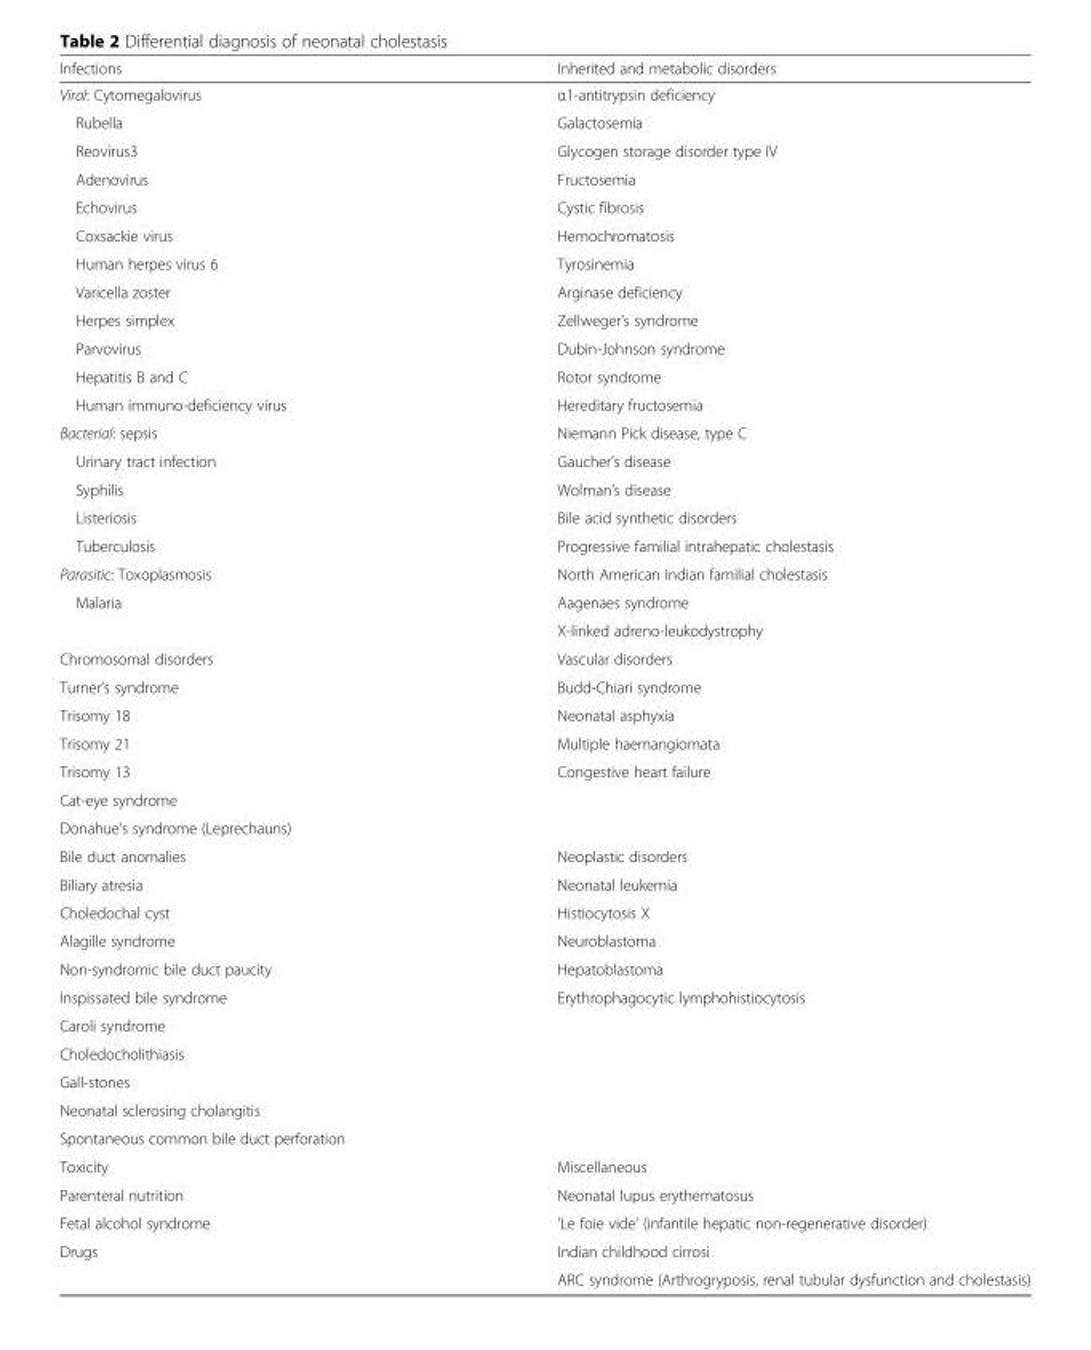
<table><thead><tr><td>Infections</td><td>Inherited and metabolic disorders</td></tr></thead><tbody><tr><td>Viral: Cytomegalovirus</td><td>α1-antitrypsin deficiency</td></tr><tr><td>Rubella</td><td>Galactosemia</td></tr><tr><td>Reovirus3</td><td>Glycogen storage disorder type IV</td></tr><tr><td>Adenovirus</td><td>Fructosemia</td></tr><tr><td>Echovirus</td><td>Cystic fibrosis</td></tr><tr><td>Coxsackie virus</td><td>Hemochromatosis</td></tr><tr><td>Human herpes virus 6</td><td>Tyrosinemia</td></tr><tr><td>Varicella zoster</td><td>Arginase deficiency</td></tr><tr><td>Herpes simplex</td><td>Zellweger’s syndrome</td></tr><tr><td>Parvovirus</td><td>Dubin-Johnson syndrome</td></tr><tr><td>Hepatitis B and C</td><td>Rotor syndrome</td></tr><tr><td>Human immuno-deficiency virus</td><td>Hereditary fructosemia</td></tr><tr><td>Bacterial: sepsis</td><td>Niemann Pick disease, type C</td></tr><tr><td>Urinary tract infection</td><td>Gaucher’s disease</td></tr><tr><td>Syphilis</td><td>Wolman’s disease</td></tr><tr><td>Listeriosis</td><td>Bile acid synthetic disorders</td></tr><tr><td>Tuberculosis</td><td>Progressive familial intrahepatic cholestasis</td></tr><tr><td>Parasitic: Toxoplasmosis</td><td>North American Indian familial cholestasis</td></tr><tr><td rowspan="2">Malaria</td><td>Aagenaes syndrome</td></tr><tr><td>X-linked adreno-leukodystrophy</td></tr><tr><td>Chromosomal disorders</td><td>Vascular disorders</td></tr><tr><td>Turner’s syndrome</td><td>Budd-Chiari syndrome</td></tr><tr><td>Trisomy 18</td><td>Neonatal asphyxia</td></tr><tr><td>Trisomy 21</td><td>Multiple haemangiomata</td></tr><tr><td>Trisomy 13</td><td>Congestive heart failure</td></tr><tr><td colspan="2">Cat-eye syndrome</td></tr><tr><td colspan="2">Donahue’s syndrome (Leprechauns)</td></tr><tr><td>Bile duct anomalies</td><td>Neoplastic disorders</td></tr><tr><td>Biliary atresia</td><td>Neonatal leukemia</td></tr><tr><td>Choledochal cyst</td><td>Histiocytosis X</td></tr><tr><td>Alagille syndrome</td><td>Neuroblastoma</td></tr><tr><td>Non-syndromic bile duct paucity</td><td>Hepatoblastoma</td></tr><tr><td>Inspissated bile syndrome</td><td>Erythrophagocytic lymphohistiocytosis</td></tr><tr><td colspan="2">Caroli syndrome</td></tr><tr><td colspan="2">Choledocholithiasis</td></tr><tr><td colspan="2">Gall-stones</td></tr><tr><td colspan="2">Neonatal sclerosing cholangitis</td></tr><tr><td colspan="2">Spontaneous common bile duct perforation</td></tr><tr><td>Toxicity</td><td>Miscellaneous</td></tr><tr><td>Parenteral nutrition</td><td>Neonatal lupus erythematosus</td></tr><tr><td>Fetal alcohol syndrome</td><td>’Le foie vide’ (infantile hepatic non-regenerative disorder)</td></tr><tr><td rowspan="2">Drugs</td><td>Indian childhood cirrosi</td></tr><tr><td>ARC syndrome (Arthrogryposis, renal tubular dysfunction and cholestasis)</td></tr></tbody></table>